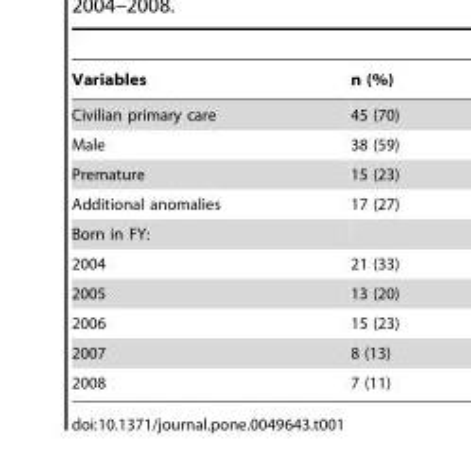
<table><thead><tr><td>Variables</td><td>n (%)</td></tr></thead><tbody><tr><td>Civilian primary care</td><td>45 (70)</td></tr><tr><td>Male</td><td>38 (59)</td></tr><tr><td>Premature</td><td>15 (23)</td></tr><tr><td>Additional anomalies</td><td>17 (27)</td></tr><tr><td colspan="2">Born in FY:</td></tr><tr><td>2004</td><td>21 (33)</td></tr><tr><td>2005</td><td>13 (20)</td></tr><tr><td>2006</td><td>15 (23)</td></tr><tr><td>2007</td><td>8 (13)</td></tr><tr><td>2008</td><td>7 (11)</td></tr></tbody></table>